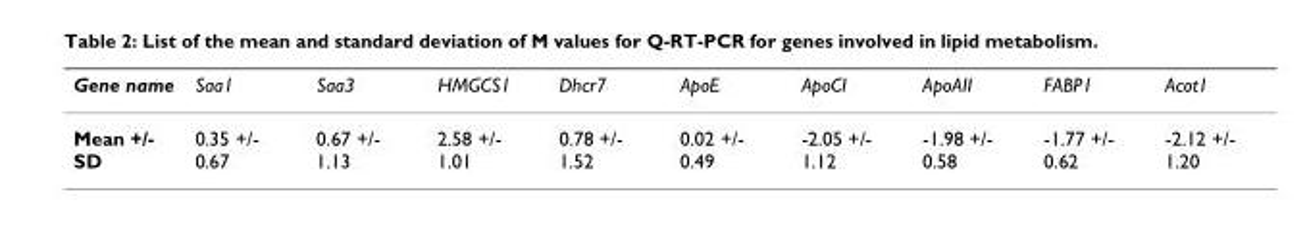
<table><thead><tr><td>Gene name</td><td>Saa1</td><td>Saa3</td><td>HMGCS1</td><td>Dhcr7</td><td>ApoE</td><td>ApoCI</td><td>ApoAII</td><td>FABP1</td><td>Acot1</td></tr></thead><tbody><tr><td>Mean +/- SD</td><td>0.35 +/- 0.67</td><td>0.67 +/- 1.13</td><td>2.58 +/- 1.01</td><td>0.78 +/- 1.52</td><td>0.02 +/- 0.49</td><td>-2.05 +/- 1.12</td><td>-1.98 +/- 0.58</td><td>-1.77 +/- 0.62</td><td>-2.12 +/- 1.20</td></tr></tbody></table>